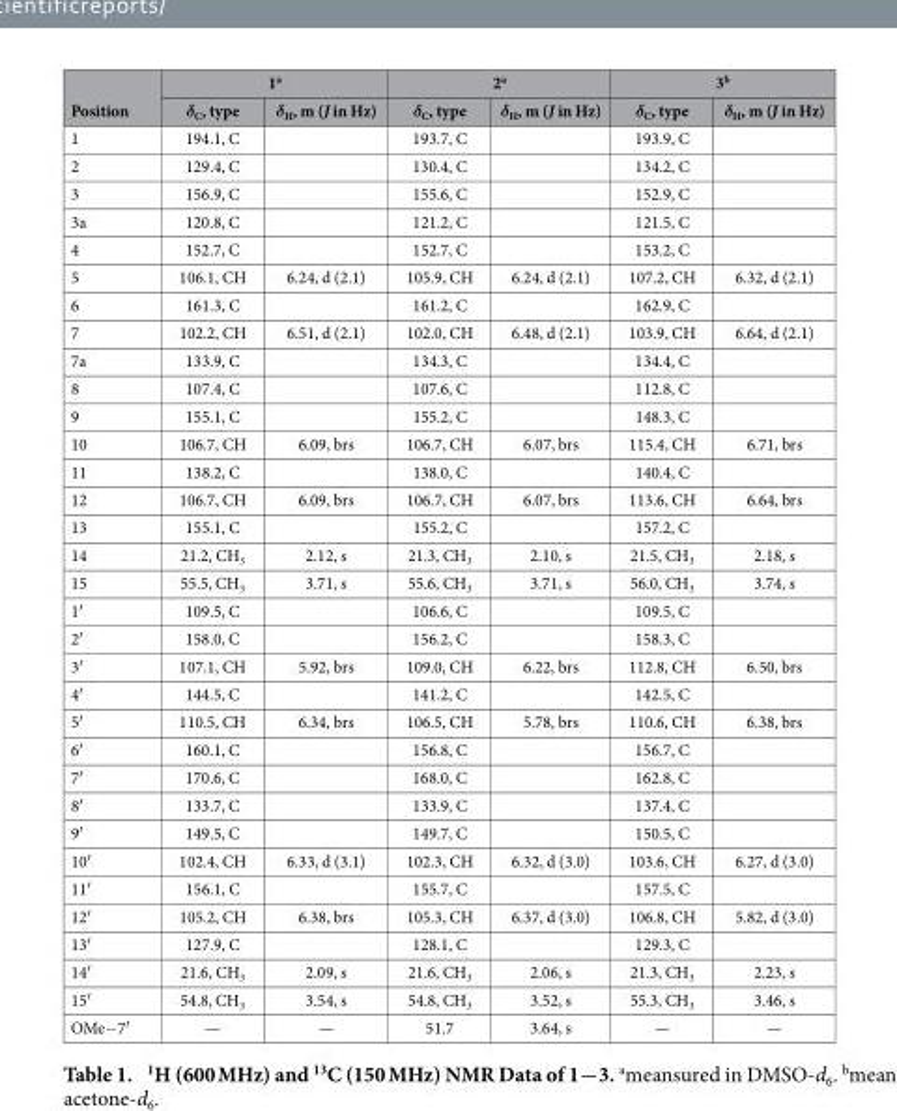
<table><thead><tr><td rowspan="2">Position</td><td colspan="2">1<sup>a</sup></td><td colspan="2">2<sup>a</sup></td><td colspan="2">3<sup>b</sup></td></tr><tr><td>δ<sub>C</sub>, type</td><td>δ<sub>H</sub>, m (J in Hz)</td><td>δ<sub>C</sub>, type</td><td>δ<sub>H</sub>, m (J in Hz)</td><td>δ<sub>C</sub>, type</td><td>δ<sub>H</sub>, m (J in Hz)</td></tr></thead><tbody><tr><td>1</td><td>194.1, C</td><td></td><td>193.7, C</td><td></td><td>193.9, C</td><td></td></tr><tr><td>2</td><td>129.4, C</td><td></td><td>130.4, C</td><td></td><td>134.2, C</td><td></td></tr><tr><td>3</td><td>156.9, C</td><td></td><td>155.6, C</td><td></td><td>152.9, C</td><td></td></tr><tr><td>3a</td><td>120.8, C</td><td></td><td>121.2, C</td><td></td><td>121.5, C</td><td></td></tr><tr><td>4</td><td>152.7, C</td><td></td><td>152.7, C</td><td></td><td>153.2, C</td><td></td></tr><tr><td>5</td><td>106.1, CH</td><td>6.24, d (2.1)</td><td>105.9, CH</td><td>6.24, d (2.1)</td><td>107.2, CH</td><td>6.32, d (2.1)</td></tr><tr><td>6</td><td>161.3, C</td><td></td><td>161.2, C</td><td></td><td>162.9, C</td><td></td></tr><tr><td>7</td><td>102.2, CH</td><td>6.51, d (2.1)</td><td>102.0, CH</td><td>6.48, d (2.1)</td><td>103.9, CH</td><td>6.64, d (2.1)</td></tr><tr><td>7a</td><td>133.9, C</td><td></td><td>134.3, C</td><td></td><td>134.4, C</td><td></td></tr><tr><td>8</td><td>107.4, C</td><td></td><td>107.6, C</td><td></td><td>112.8, C</td><td></td></tr><tr><td>9</td><td>155.1, C</td><td></td><td>155.2, C</td><td></td><td>148.3, C</td><td></td></tr><tr><td>10</td><td>106.7, CH</td><td>6.09, brs</td><td>106.7, CH</td><td>6.07, brs</td><td>115.4, CH</td><td>6.71, brs</td></tr><tr><td>11</td><td>138.2, C</td><td></td><td>138.0, C</td><td></td><td>140.4, C</td><td></td></tr><tr><td>12</td><td>106.7, CH</td><td>6.09, brs</td><td>106.7, CH</td><td>6.07, brs</td><td>113.6, CH</td><td>6.64, brs</td></tr><tr><td>13</td><td>155.1, C</td><td></td><td>155.2, C</td><td></td><td>157.2, C</td><td></td></tr><tr><td>14</td><td>21.2, CH<sub>3</sub></td><td>2.12, s</td><td>21.3, CH<sub>3</sub></td><td>2.10, s</td><td>21.5, CH<sub>3</sub></td><td>2.18, s</td></tr><tr><td>15</td><td>55.5, CH<sub>3</sub></td><td>3.71, s</td><td>55.6, CH<sub>3</sub></td><td>3.71, s</td><td>56.0, CH<sub>3</sub></td><td>3.74, s</td></tr><tr><td>1′</td><td>109.5, C</td><td></td><td>106.6, C</td><td></td><td>109.5, C</td><td></td></tr><tr><td>2′</td><td>158.0, C</td><td></td><td>156.2, C</td><td></td><td>158.3, C</td><td></td></tr><tr><td>3′</td><td>107.1, CH</td><td>5.92, brs</td><td>109.0, CH</td><td>6.22, brs</td><td>112.8, CH</td><td>6.50, brs</td></tr><tr><td>4′</td><td>144.5, C</td><td></td><td>141.2, C</td><td></td><td>142.5, C</td><td></td></tr><tr><td>5′</td><td>110.5, CH</td><td>6.34, brs</td><td>106.5, CH</td><td>5.78, brs</td><td>110.6, CH</td><td>6.38, brs</td></tr><tr><td>6′</td><td>160.1, C</td><td></td><td>156.8, C</td><td></td><td>156.7, C</td><td></td></tr><tr><td>7′</td><td>170.6, C</td><td></td><td>168.0, C</td><td></td><td>162.8, C</td><td></td></tr><tr><td>8′</td><td>133.7, C</td><td></td><td>133.9, C</td><td></td><td>137.4, C</td><td></td></tr><tr><td>9′</td><td>149.5, C</td><td></td><td>149.7, C</td><td></td><td>150.5, C</td><td></td></tr><tr><td>10′</td><td>102.4, CH</td><td>6.33, d (3.1)</td><td>102.3, CH</td><td>6.32, d (3.0)</td><td>103.6, CH</td><td>6.27, d (3.0)</td></tr><tr><td>11′</td><td>156.1, C</td><td></td><td>155.7, C</td><td></td><td>157.5, C</td><td></td></tr><tr><td>12′</td><td>105.2, CH</td><td>6.38, brs</td><td>105.3, CH</td><td>6.37, d (3.0)</td><td>106.8, CH</td><td>5.82, d (3.0)</td></tr><tr><td>13′</td><td>127.9, C</td><td></td><td>128.1, C</td><td></td><td>129.3, C</td><td></td></tr><tr><td>14′</td><td>21.6, CH<sub>3</sub></td><td>2.09, s</td><td>21.6, CH<sub>3</sub></td><td>2.06, s</td><td>21.3, CH<sub>3</sub></td><td>2.23, s</td></tr><tr><td>15′</td><td>54.8, CH<sub>3</sub></td><td>3.54, s</td><td>54.8, CH<sub>3</sub></td><td>3.52, s</td><td>55.3, CH<sub>3</sub></td><td>3.46, s</td></tr><tr><td>OMe− 7′</td><td>—</td><td>—</td><td>51.7</td><td>3.64, s</td><td>—</td><td>—</td></tr></tbody></table>